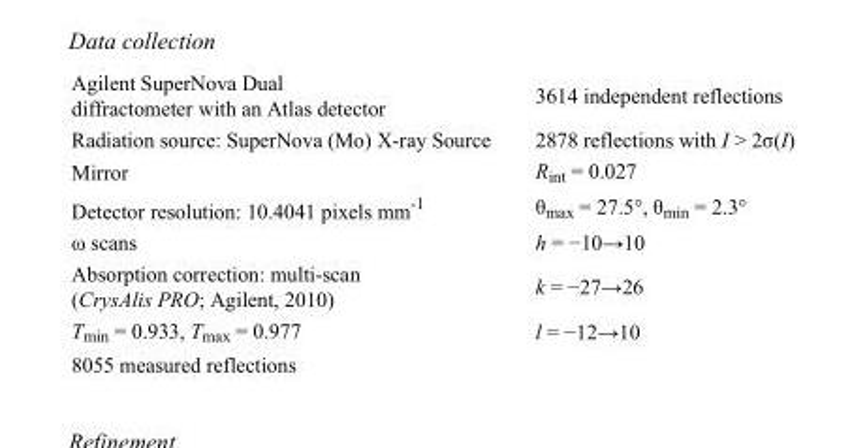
<table><tbody><tr><td>Agilent SuperNova Dual diffractometer with an Atlas detector</td><td>3614 independent reflections</td></tr><tr><td>Radiation source: SuperNova (Mo) X-ray Source</td><td>2878 reflections with I &gt; 2σ(I)</td></tr><tr><td>Mirror</td><td>R<sub>int</sub> = 0.027</td></tr><tr><td>Detector resolution: 10.4041 pixels mm<sup>-1</sup></td><td>θ<sub>max</sub> = 27.5°, θ<sub>min</sub> = 2.3°</td></tr><tr><td>ω scans</td><td>h = −10→10</td></tr><tr><td>Absorption correction: multi-scan (CrysAlis PRO; Agilent, 2010)</td><td>k = −27→26</td></tr><tr><td>T<sub>min</sub> = 0.933, T<sub>max</sub> = 0.977</td><td>l = −12→10</td></tr><tr><td>8055 measured reflections</td><td></td></tr></tbody></table>